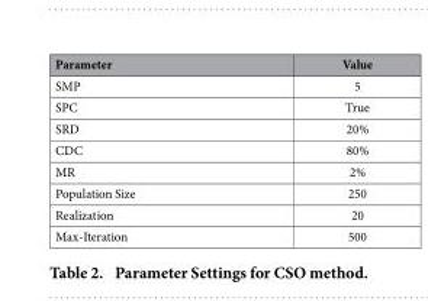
<table><thead><tr><td>Parameter</td><td>Value</td></tr></thead><tbody><tr><td>SMP</td><td>5</td></tr><tr><td>SPC</td><td>True</td></tr><tr><td>SRD</td><td>20%</td></tr><tr><td>CDC</td><td>80%</td></tr><tr><td>MR</td><td>2%</td></tr><tr><td>Population Size</td><td>250</td></tr><tr><td>Realization</td><td>20</td></tr><tr><td>Max-Iteration</td><td>500</td></tr></tbody></table>